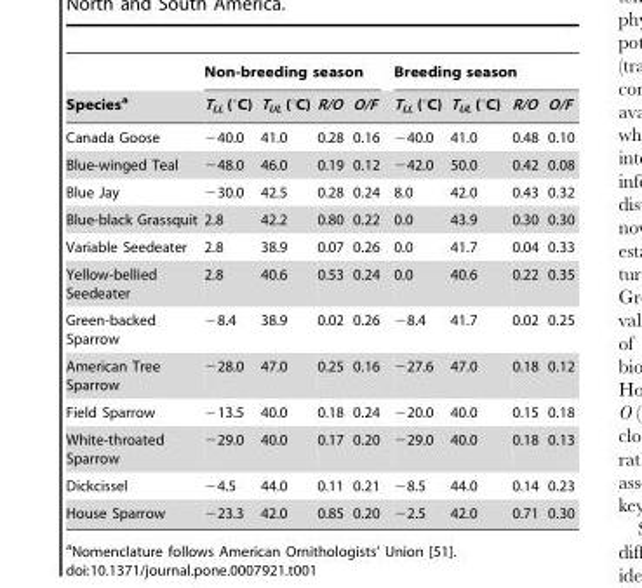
<table><thead><tr><td rowspan="2">Species<sup>a</sup></td><td colspan="4">Non-breeding season</td><td colspan="4">Breeding season</td></tr><tr><td>T<sub>LL</sub> (°C)</td><td>T<sub>UL</sub> (°C)</td><td>R/O</td><td>O/F</td><td>T<sub>LL</sub> (°C)</td><td>T<sub>UL</sub> (°C)</td><td>R/O</td><td>O/F</td></tr></thead><tbody><tr><td>Canada Goose</td><td>−40.0</td><td>41.0</td><td>0.28</td><td>0.16</td><td>−40.0</td><td>41.0</td><td>0.48</td><td>0.10</td></tr><tr><td>Blue-winged Teal</td><td>−48.0</td><td>46.0</td><td>0.19</td><td>0.12</td><td>−42.0</td><td>50.0</td><td>0.42</td><td>0.08</td></tr><tr><td>Blue Jay</td><td>−30.0</td><td>42.5</td><td>0.28</td><td>0.24</td><td>8.0</td><td>42.0</td><td>0.43</td><td>0.32</td></tr><tr><td>Blue-black Grassquit</td><td>2.8</td><td>42.2</td><td>0.80</td><td>0.22</td><td>0.0</td><td>43.9</td><td>0.30</td><td>0.30</td></tr><tr><td>Variable Seedeater</td><td>2.8</td><td>38.9</td><td>0.07</td><td>0.26</td><td>0.0</td><td>41.7</td><td>0.04</td><td>0.33</td></tr><tr><td>Yellow-bellied Seedeater</td><td>2.8</td><td>40.6</td><td>0.53</td><td>0.24</td><td>0.0</td><td>40.6</td><td>0.22</td><td>0.35</td></tr><tr><td>Green-backed Sparrow</td><td>−8.4</td><td>38.9</td><td>0.02</td><td>0.26</td><td>−8.4</td><td>41.7</td><td>0.02</td><td>0.25</td></tr><tr><td>American Tree Sparrow</td><td>−28.0</td><td>47.0</td><td>0.25</td><td>0.16</td><td>−27.6</td><td>47.0</td><td>0.18</td><td>0.12</td></tr><tr><td>Field Sparrow</td><td>−13.5</td><td>40.0</td><td>0.18</td><td>0.24</td><td>−20.0</td><td>40.0</td><td>0.15</td><td>0.18</td></tr><tr><td>White-throated Sparrow</td><td>−29.0</td><td>40.0</td><td>0.17</td><td>0.20</td><td>−29.0</td><td>40.0</td><td>0.18</td><td>0.13</td></tr><tr><td>Dickcissel</td><td>−4.5</td><td>44.0</td><td>0.11</td><td>0.21</td><td>−8.5</td><td>44.0</td><td>0.14</td><td>0.23</td></tr><tr><td>House Sparrow</td><td>−23.3</td><td>42.0</td><td>0.85</td><td>0.20</td><td>−2.5</td><td>42.0</td><td>0.71</td><td>0.30</td></tr></tbody></table>